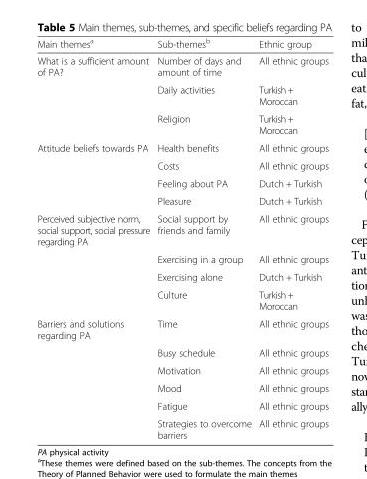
<table><thead><tr><td>Main themes<sup>a</sup></td><td>Sub-themes<sup>b</sup></td><td>Ethnic group</td></tr></thead><tbody><tr><td rowspan="3">What is a sufficient amount of PA?</td><td>Number of days and amount of time</td><td>All ethnic groups</td></tr><tr><td>Daily activities</td><td>Turkish + Moroccan</td></tr><tr><td>Religion</td><td>Turkish + Moroccan</td></tr><tr><td rowspan="4">Attitude beliefs towards PA</td><td>Health benefits</td><td>All ethnic groups</td></tr><tr><td>Costs</td><td>All ethnic groups</td></tr><tr><td>Feeling about PA</td><td>Dutch + Turkish</td></tr><tr><td>Pleasure</td><td>Dutch + Turkish</td></tr><tr><td rowspan="4">Perceived subjective norm, social support, social pressure regarding PA</td><td>Social support by friends and family</td><td>All ethnic groups</td></tr><tr><td>Exercising in a group</td><td>All ethnic groups</td></tr><tr><td>Exercising alone</td><td>Dutch + Turkish</td></tr><tr><td>Culture</td><td>Turkish + Moroccan</td></tr><tr><td rowspan="6">Barriers and solutions regarding PA</td><td>Time</td><td>All ethnic groups</td></tr><tr><td>Busy schedule</td><td>All ethnic groups</td></tr><tr><td>Motivation</td><td>All ethnic groups</td></tr><tr><td>Mood</td><td>All ethnic groups</td></tr><tr><td>Fatigue</td><td>All ethnic groups</td></tr><tr><td>Strategies to overcome barriers</td><td>All ethnic groups</td></tr></tbody></table>